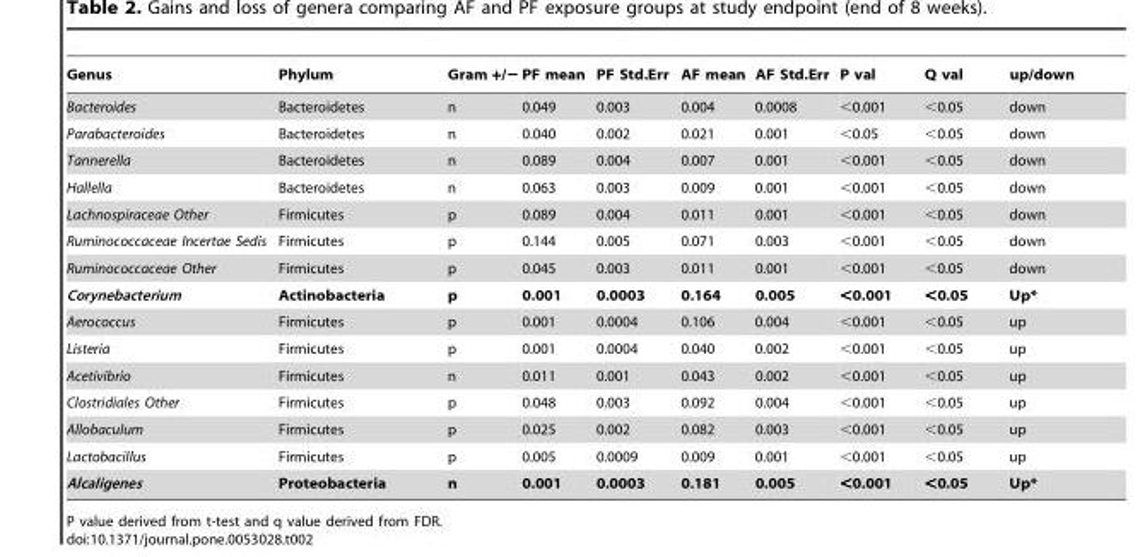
<table><thead><tr><td>Genus</td><td>Phylum</td><td>Gram +/−</td><td>PF mean</td><td>PF Std.Err</td><td>AF mean</td><td>AF Std.Err</td><td>P val</td><td>Q val</td><td>up/down</td></tr></thead><tbody><tr><td>Bacteroides</td><td>Bacteroidetes</td><td>n</td><td>0.049</td><td>0.003</td><td>0.004</td><td>0.0008</td><td>&lt;0.001</td><td>&lt;0.05</td><td>down</td></tr><tr><td>Parabacteroides</td><td>Bacteroidetes</td><td>n</td><td>0.040</td><td>0.002</td><td>0.021</td><td>0.001</td><td>&lt;0.05</td><td>&lt;0.05</td><td>down</td></tr><tr><td>Tannerella</td><td>Bacteroidetes</td><td>n</td><td>0.089</td><td>0.004</td><td>0.007</td><td>0.001</td><td>&lt;0.001</td><td>&lt;0.05</td><td>down</td></tr><tr><td>Hallella</td><td>Bacteroidetes</td><td>n</td><td>0.063</td><td>0.003</td><td>0.009</td><td>0.001</td><td>&lt;0.001</td><td>&lt;0.05</td><td>down</td></tr><tr><td>Lachnospiraceae Other</td><td>Firmicutes</td><td>p</td><td>0.089</td><td>0.004</td><td>0.011</td><td>0.001</td><td>&lt;0.001</td><td>&lt;0.05</td><td>down</td></tr><tr><td>Ruminococcaceae Incertae Sedis</td><td>Firmicutes</td><td>p</td><td>0.144</td><td>0.005</td><td>0.071</td><td>0.003</td><td>&lt;0.001</td><td>&lt;0.05</td><td>down</td></tr><tr><td>Ruminococcaceae Other</td><td>Firmicutes</td><td>p</td><td>0.045</td><td>0.003</td><td>0.011</td><td>0.001</td><td>&lt;0.001</td><td>&lt;0.05</td><td>down</td></tr><tr><td>Corynebacterium</td><td>Actinobacteria</td><td>p</td><td>0.001</td><td>0.0003</td><td>0.164</td><td>0.005</td><td>&lt;0.001</td><td>&lt;0.05</td><td>Up*</td></tr><tr><td>Aerococcus</td><td>Firmicutes</td><td>p</td><td>0.001</td><td>0.0004</td><td>0.106</td><td>0.004</td><td>&lt;0.001</td><td>&lt;0.05</td><td>up</td></tr><tr><td>Listeria</td><td>Firmicutes</td><td>p</td><td>0.001</td><td>0.0004</td><td>0.040</td><td>0.002</td><td>&lt;0.001</td><td>&lt;0.05</td><td>up</td></tr><tr><td>Acetivibrio</td><td>Firmicutes</td><td>n</td><td>0.011</td><td>0.001</td><td>0.043</td><td>0.002</td><td>&lt;0.001</td><td>&lt;0.05</td><td>up</td></tr><tr><td>Clostridiales Other</td><td>Firmicutes</td><td>p</td><td>0.048</td><td>0.003</td><td>0.092</td><td>0.004</td><td>&lt;0.001</td><td>&lt;0.05</td><td>up</td></tr><tr><td>Allobaculum</td><td>Firmicutes</td><td>p</td><td>0.025</td><td>0.002</td><td>0.082</td><td>0.003</td><td>&lt;0.001</td><td>&lt;0.05</td><td>up</td></tr><tr><td>Lactobacillus</td><td>Firmicutes</td><td>p</td><td>0.005</td><td>0.0009</td><td>0.009</td><td>0.001</td><td>&lt;0.001</td><td>&lt;0.05</td><td>up</td></tr><tr><td>Alcaligenes</td><td>Proteobacteria</td><td>n</td><td>0.001</td><td>0.0003</td><td>0.181</td><td>0.005</td><td>&lt;0.001</td><td>&lt;0.05</td><td>Up*</td></tr></tbody></table>